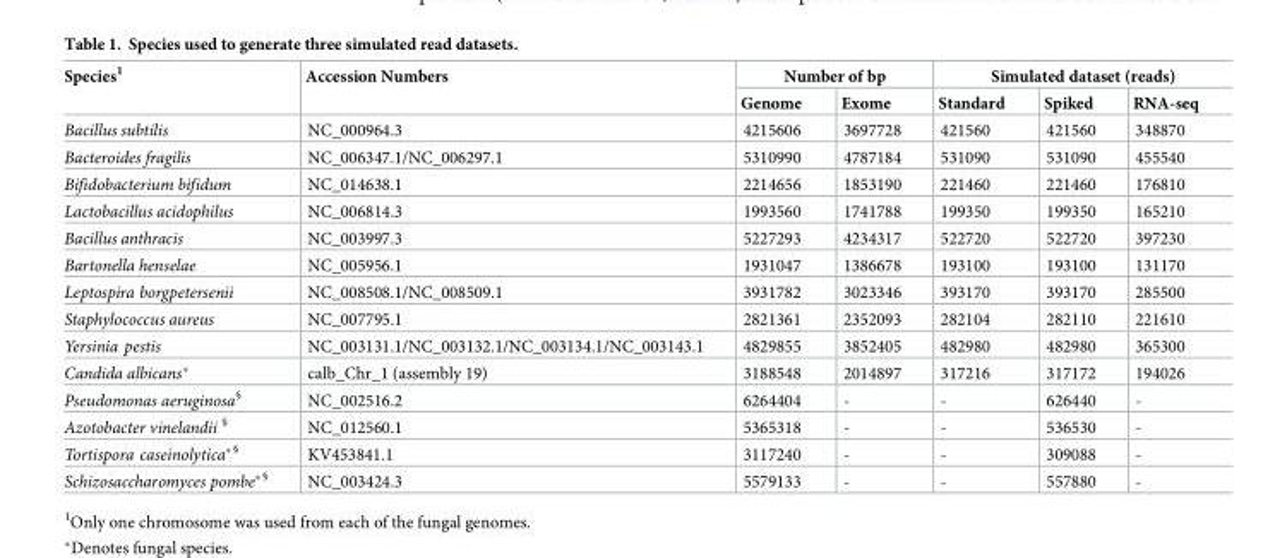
<table><thead><tr><td rowspan="2">Species<sup>1</sup></td><td rowspan="2">Accession Numbers</td><td colspan="2">Number of bp</td><td colspan="3">Simulated dataset (reads)</td></tr><tr><td>Genome</td><td>Exome</td><td>Standard</td><td>Spiked</td><td>RNA-seq</td></tr></thead><tbody><tr><td>Bacillus subtilis</td><td>NC_000964.3</td><td>4215606</td><td>3697728</td><td>421560</td><td>421560</td><td>348870</td></tr><tr><td>Bacteroides fragilis</td><td>NC_006347.1/NC_006297.1</td><td>5310990</td><td>4787184</td><td>531090</td><td>531090</td><td>455540</td></tr><tr><td>Bifidobacterium bifidum</td><td>NC_014638.1</td><td>2214656</td><td>1853190</td><td>221460</td><td>221460</td><td>176810</td></tr><tr><td>Lactobacillus acidophilus</td><td>NC_006814.3</td><td>1993560</td><td>1741788</td><td>199350</td><td>199350</td><td>165210</td></tr><tr><td>Bacillus anthracis</td><td>NC_003997.3</td><td>5227293</td><td>4234317</td><td>522720</td><td>522720</td><td>397230</td></tr><tr><td>Bartonella henselae</td><td>NC_005956.1</td><td>1931047</td><td>1386678</td><td>193100</td><td>193100</td><td>131170</td></tr><tr><td>Leptospira borgpetersenii</td><td>NC_008508.1/NC_008509.1</td><td>3931782</td><td>3023346</td><td>393170</td><td>393170</td><td>285500</td></tr><tr><td>Staphylococcus aureus</td><td>NC_007795.1</td><td>2821361</td><td>2352093</td><td>282104</td><td>282110</td><td>221610</td></tr><tr><td>Yersinia pestis</td><td>NC_003131.1/NC_003132.1/NC_003134.1/NC_003143.1</td><td>4829855</td><td>3852405</td><td>482980</td><td>482980</td><td>365300</td></tr><tr><td>Candida albicans*</td><td>calb_Chr_1 (assembly 19)</td><td>3188548</td><td>2014897</td><td>317216</td><td>317172</td><td>194026</td></tr><tr><td>Pseudomonas aeruginosa<sup>§</sup></td><td>NC_002516.2</td><td>6264404</td><td>-</td><td>-</td><td>626440</td><td>-</td></tr><tr><td>Azotobacter vinelandii <sup>§</sup></td><td>NC_012560.1</td><td>5365318</td><td>-</td><td>-</td><td>536530</td><td>-</td></tr><tr><td>Tortispora caseinolytica*<sup>§</sup></td><td>KV453841.1</td><td>3117240</td><td>-</td><td>-</td><td>309088</td><td>-</td></tr><tr><td>Schizosaccharomyces pombe*<sup>§</sup></td><td>NC_003424.3</td><td>5579133</td><td>-</td><td>-</td><td>557880</td><td>-</td></tr></tbody></table>